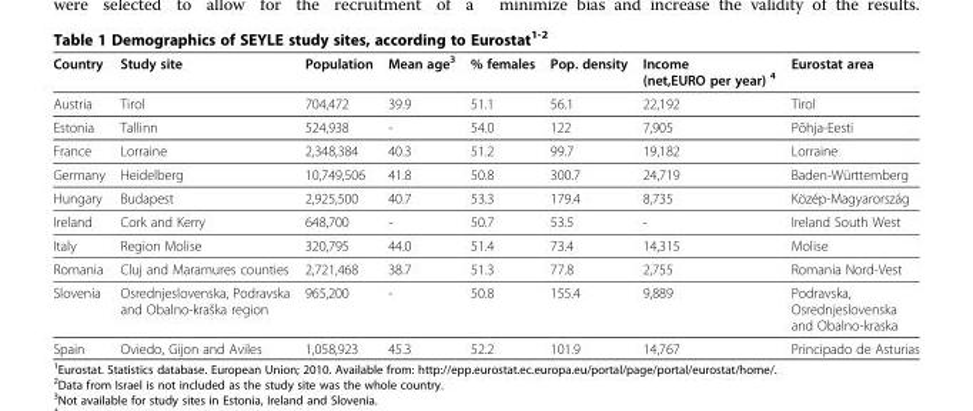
<table><thead><tr><td>Country</td><td>Study site</td><td>Population</td><td>Mean age<sup>3</sup></td><td>% females</td><td>Pop. density</td><td>Income (net,EURO per year) <sup>4</sup></td><td>Eurostat area</td></tr></thead><tbody><tr><td>Austria</td><td>Tirol</td><td>704,472</td><td>39.9</td><td>51.1</td><td>56.1</td><td>22,192</td><td>Tirol</td></tr><tr><td>Estonia</td><td>Tallinn</td><td>524,938</td><td>-</td><td>54.0</td><td>122</td><td>7,905</td><td>Põhja-Eesti</td></tr><tr><td>France</td><td>Lorraine</td><td>2,348,384</td><td>40.3</td><td>51.2</td><td>99.7</td><td>19,182</td><td>Lorraine</td></tr><tr><td>Germany</td><td>Heidelberg</td><td>10,749,506</td><td>41.8</td><td>50.8</td><td>300.7</td><td>24,719</td><td>Baden-Württemberg</td></tr><tr><td>Hungary</td><td>Budapest</td><td>2,925,500</td><td>40.7</td><td>53.3</td><td>179.4</td><td>8,735</td><td>Közép-Magyarország</td></tr><tr><td>Ireland</td><td>Cork and Kerry</td><td>648,700</td><td>-</td><td>50.7</td><td>53.5</td><td>-</td><td>Ireland South West</td></tr><tr><td>Italy</td><td>Region Molise</td><td>320,795</td><td>44.0</td><td>51.4</td><td>73.4</td><td>14,315</td><td>Molise</td></tr><tr><td>Romania</td><td>Cluj and Maramures counties</td><td>2,721,468</td><td>38.7</td><td>51.3</td><td>77.8</td><td>2,755</td><td>Romania Nord-Vest</td></tr><tr><td>Slovenia</td><td>Osrednjeslovenska, Podravska and Obalno-kraška region</td><td>965,200</td><td>-</td><td>50.8</td><td>155.4</td><td>9,889</td><td>Podravska, Osrednjeslovenska and Obalno-kraska</td></tr><tr><td>Spain</td><td>Oviedo, Gijon and Aviles</td><td>1,058,923</td><td>45.3</td><td>52.2</td><td>101.9</td><td>14,767</td><td>Principado de Asturias</td></tr></tbody></table>